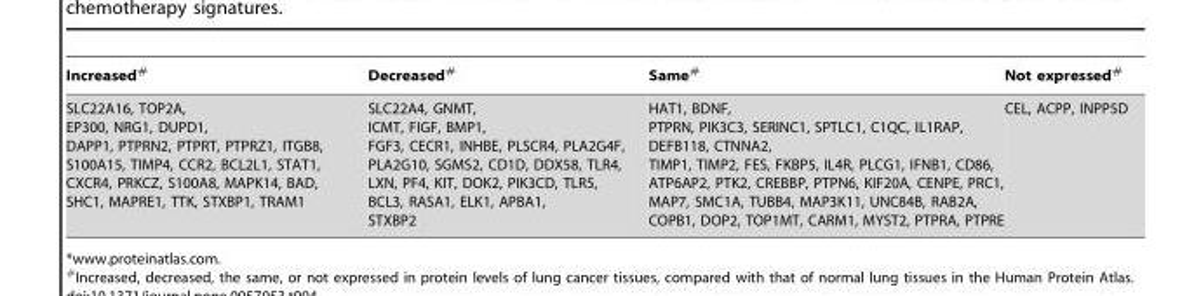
<table><thead><tr><td>Increased#</td><td>Decreased#</td><td>Same#</td><td>Not expressed#</td></tr></thead><tbody><tr><td>SLC22A16, TOP2A, EP300, NRG1, DUPD1, DAPP1, PTPRN2, PTPRT, PTPRZ1, ITGB8, S100A15, TIMP4, CCR2, BCL2L1, STAT1, CXCR4, PRKCZ, S100A8, MAPK14, BAD, SHC1, MAPRE1, TTK, STXBP1, TRAM1</td><td>SLC22A4, GNMT, ICMT, FIGF, BMP1, FGF3, CECR1, INHBE, PLSCR4, PLA2G4F, PLA2G10, SGMS2, CD1D, DDX58, TLR4, LXN, PF4, KIT, DOK2, PIK3CD, TLR5, BCL3, RASA1, ELK1, APBA1, STXBP2</td><td>HAT1, BDNF, PTPRN, PIK3C3, SERINC1, SPTLC1, C1QC, IL1RAP, DEFB118, CTNNA2, TIMP1, TIMP2, FES, FKBP5, IL4R, PLCG1, IFNB1, CD86, ATP6AP2, PTK2, CREBBP, PTPN6, KIF20A, CENPE, PRC1, MAP7, SMC1A, TUBB4, MAP3K11, UNC84B, RAB2A, COPB1, DOP2, TOP1MT, CARM1, MYST2, PTPRA, PTPRE</td><td>CEL, ACPP, INPP5D</td></tr></tbody></table>